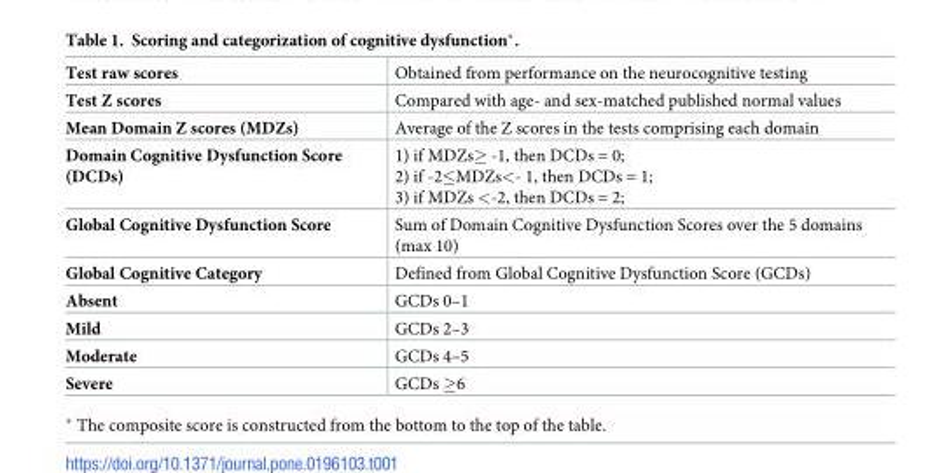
<table><tbody><tr><td>Test raw scores</td><td>Obtained from performance on the neurocognitive testing</td></tr><tr><td>Test Z scores</td><td>Compared with age- and sex-matched published normal values</td></tr><tr><td>Mean Domain Z scores (MDZs)</td><td>Average of the Z scores in the tests comprising each domain</td></tr><tr><td>Domain Cognitive Dysfunction Score (DCDs)</td><td>1) if MDZs≥ -1, then DCDs = 0; 2) if -2≤MDZs&lt;- 1, then DCDs = 1; 3) if MDZs &lt;-2, then DCDs = 2;</td></tr><tr><td>Global Cognitive Dysfunction Score</td><td>Sum of Domain Cognitive Dysfunction Scores over the 5 domains (max 10)</td></tr><tr><td>Global Cognitive Category</td><td>Defined from Global Cognitive Dysfunction Score (GCDs)</td></tr><tr><td>Absent</td><td>GCDs 0–1</td></tr><tr><td>Mild</td><td>GCDs 2–3</td></tr><tr><td>Moderate</td><td>GCDs 4–5</td></tr><tr><td>Severe</td><td>GCDs ≥6</td></tr></tbody></table>